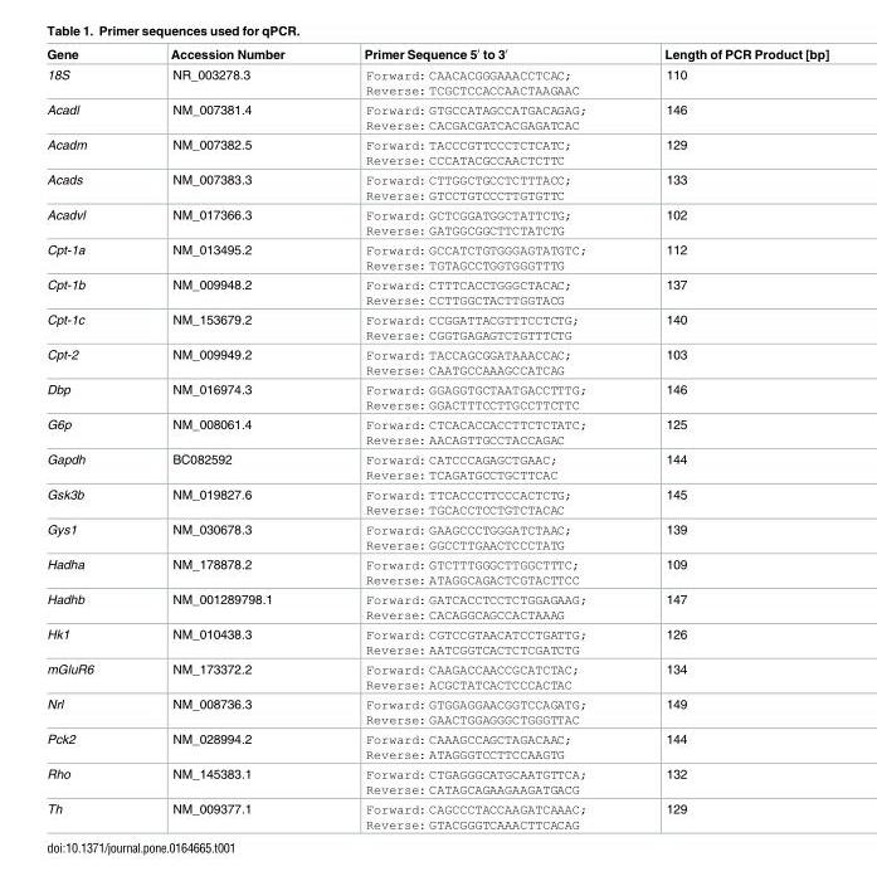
<table><thead><tr><td>Gene</td><td>Accession Number</td><td>Primer Sequence 5′ to 3′</td><td>Length of PCR Product [bp]</td></tr></thead><tbody><tr><td>18S</td><td>NR_003278.3</td><td>Forward: CAACACGGGAAACCTCAC; Reverse: TCGCTCCACCAACTAAGAAC</td><td>110</td></tr><tr><td>Acadl</td><td>NM_007381.4</td><td>Forward: GTGCCATAGCCATGACAGAG; Reverse: CACGACGATCACGAGATCAC</td><td>146</td></tr><tr><td>Acadm</td><td>NM_007382.5</td><td>Forward: TACCCGTTCCCTCTCATC; Reverse: CCCATACGCCAACTCTTC</td><td>129</td></tr><tr><td>Acads</td><td>NM_007383.3</td><td>Forward: CTTGGCTGCCTCTTTACC; Reverse: GTCCTGTCCCTTGTGTTC</td><td>133</td></tr><tr><td>Acadvl</td><td>NM_017366.3</td><td>Forward: GCTCGGATGGCTATTCTG; Reverse: GATGGCGGCTTCTATCTG</td><td>102</td></tr><tr><td>Cpt-1a</td><td>NM_013495.2</td><td>Forward: GCCATCTGTGGGAGTATGTC; Reverse: TGTAGCCTGGTGGGTTTG</td><td>112</td></tr><tr><td>Cpt-1b</td><td>NM_009948.2</td><td>Forward: CTTTCACCTGGGCTACAC; Reverse: CCTTGGCTACTTGGTACG</td><td>137</td></tr><tr><td>Cpt-1c</td><td>NM_153679.2</td><td>Forward: CCGGATTACGTTTCCTCTG; Reverse: CGGTGAGAGTCTGTTTCTG</td><td>140</td></tr><tr><td>Cpt-2</td><td>NM_009949.2</td><td>Forward: TACCAGCGGATAAACCAC; Reverse: CAATGCCAAAGCCATCAG</td><td>103</td></tr><tr><td>Dbp</td><td>NM_016974.3</td><td>Forward: GGAGGTGCTAATGACCTTTG; Reverse: GGACTTTCCTTGCCTTCTTC</td><td>146</td></tr><tr><td>G6p</td><td>NM_008061.4</td><td>Forward: CTCACACCACCTTCTCTATC; Reverse: AACAGTTGCCTACCAGAC</td><td>125</td></tr><tr><td>Gapdh</td><td>BC082592</td><td>Forward: CATCCCAGAGCTGAAC; Reverse: TCAGATGCCTGCTTCAC</td><td>144</td></tr><tr><td>Gsk3b</td><td>NM_019827.6</td><td>Forward: TTCACCCTTCCCACTCTG; Reverse: TGCACCTCCTGTCTACAC</td><td>145</td></tr><tr><td>Gys1</td><td>NM_030678.3</td><td>Forward: GAAGCCCTGGGATCTAAC; Reverse: GGCCTTGAACTCCCTATG</td><td>139</td></tr><tr><td>Hadha</td><td>NM_178878.2</td><td>Forward: GTCTTTGGGCTTGGCTTTC; Reverse: ATAGGCAGACTCGTACTTCC</td><td>109</td></tr><tr><td>Hadhb</td><td>NM_001289798.1</td><td>Forward: GATCACCTCCTCTGGAGAAG; Reverse: CACAGGCAGCCACTAAAG</td><td>147</td></tr><tr><td>Hk1</td><td>NM_010438.3</td><td>Forward: CGTCCGTAACATCCTGATTG; Reverse: AATCGGTCACTCTCGATCTG</td><td>126</td></tr><tr><td>mGluR6</td><td>NM_173372.2</td><td>Forward: CAAGACCAACCGCATCTAC; Reverse: ACGCTATCACTCCCACTAC</td><td>134</td></tr><tr><td>Nrl</td><td>NM_008736.3</td><td>Forward: GTGGAGGAACGGTCCAGATG; Reverse: GAACTGGAGGGCTGGGTTAC</td><td>149</td></tr><tr><td>Pck2</td><td>NM_028994.2</td><td>Forward: CAAAGCCAGCTAGACAAC; Reverse: ATAGGGTCCTTCCAAGTG</td><td>144</td></tr><tr><td>Rho</td><td>NM_145383.1</td><td>Forward: CTGAGGGCATGCAATGTTCA; Reverse: CATAGCAGAAGAAGATGACG</td><td>132</td></tr><tr><td>Th</td><td>NM_009377.1</td><td>Forward: CAGCCCTACCAAGATCAAAC; Reverse: GTACGGGTCAAACTTCACAG</td><td>129</td></tr></tbody></table>